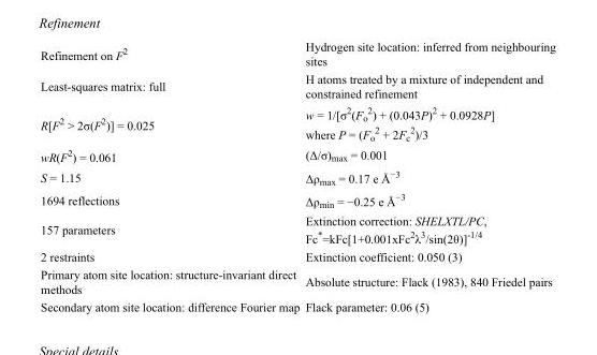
<table><tbody><tr><td>Refinement on F<sup>2</sup></td><td>Hydrogen site location: inferred from neighbouring sites</td></tr><tr><td>Least-squares matrix: full</td><td>H atoms treated by a mixture of independent and constrained refinement</td></tr><tr><td>R[F<sup>2</sup> &gt; 2σ(F<sup>2</sup>)] = 0.025</td><td>w = 1/[σ<sup>2</sup>(F<sub>o</sub> <sup>2</sup>) + (0.043P)<sup>2</sup> + 0.0928P] where P = (F<sub>o</sub> <sup>2</sup> + 2F<sub>c</sub> <sup>2</sup>)/3</td></tr><tr><td>wR(F<sup>2</sup>) = 0.061</td><td>(Δ/σ)<sub>max</sub> = 0.001</td></tr><tr><td>S = 1.15</td><td>Δρ<sub>max</sub> = 0.17 e Å<sup>−3</sup></td></tr><tr><td>1694 reflections</td><td>Δρ<sub>min</sub> = −0.25 e Å<sup>−3</sup></td></tr><tr><td>157 parameters</td><td>Extinction correction: SHELXTL/PC, Fc*=kFc[1+0.001xFc<sup>2</sup>λ<sup>3</sup>/sin(2θ)]<sup>-1/4</sup></td></tr><tr><td>2 restraints</td><td>Extinction coefficient: 0.050 (3)</td></tr><tr><td>Primary atom site location: structure-invariant direct methods</td><td>Absolute structure: Flack (1983), 840 Friedel pairs</td></tr><tr><td>Secondary atom site location: difference Fourier map</td><td>Flack parameter: 0.06 (5)</td></tr></tbody></table>